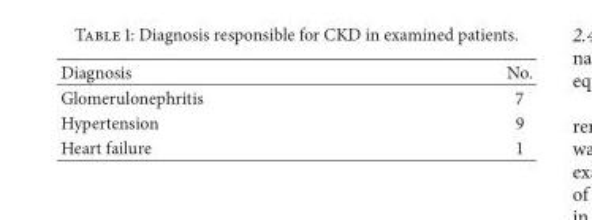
<table><thead><tr><td>Diagnosis</td><td>No.</td></tr></thead><tbody><tr><td>Glomerulonephritis</td><td>7</td></tr><tr><td>Hypertension</td><td>9</td></tr><tr><td>Heart failure</td><td>1</td></tr></tbody></table>